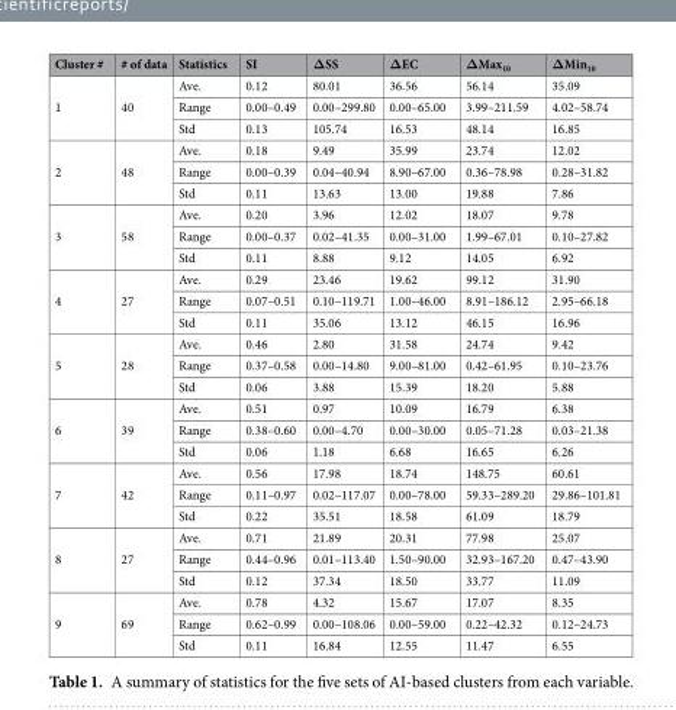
<table><thead><tr><td>Cluster #</td><td># of data</td><td>Statistics</td><td>SI</td><td>ΔSS</td><td>ΔEC</td><td>ΔMax<sub>10</sub></td><td>ΔMin<sub>10</sub></td></tr></thead><tbody><tr><td rowspan="3">1</td><td rowspan="3">40</td><td>Ave.</td><td>0.12</td><td>80.01</td><td>36.56</td><td>56.14</td><td>35.09</td></tr><tr><td>Range</td><td>0.00–0.49</td><td>0.00–299.80</td><td>0.00–65.00</td><td>3.99–211.59</td><td>4.02–58.74</td></tr><tr><td>Std</td><td>0.13</td><td>105.74</td><td>16.53</td><td>48.14</td><td>16.85</td></tr><tr><td rowspan="3">2</td><td rowspan="3">48</td><td>Ave.</td><td>0.18</td><td>9.49</td><td>35.99</td><td>23.74</td><td>12.02</td></tr><tr><td>Range</td><td>0.00–0.39</td><td>0.04–40.94</td><td>8.90–67.00</td><td>0.36–78.98</td><td>0.28–31.82</td></tr><tr><td>Std</td><td>0.11</td><td>13.63</td><td>13.00</td><td>19.88</td><td>7.86</td></tr><tr><td rowspan="3">3</td><td rowspan="3">58</td><td>Ave.</td><td>0.20</td><td>3.96</td><td>12.02</td><td>18.07</td><td>9.78</td></tr><tr><td>Range</td><td>0.00–0.37</td><td>0.02–41.35</td><td>0.00–31.00</td><td>1.99–67.01</td><td>0.10–27.82</td></tr><tr><td>Std</td><td>0.11</td><td>8.88</td><td>9.12</td><td>14.05</td><td>6.92</td></tr><tr><td rowspan="3">4</td><td rowspan="3">27</td><td>Ave.</td><td>0.29</td><td>23.46</td><td>19.62</td><td>99.12</td><td>31.90</td></tr><tr><td>Range</td><td>0.07–0.51</td><td>0.10–119.71</td><td>1.00–46.00</td><td>8.91–186.12</td><td>2.95–66.18</td></tr><tr><td>Std</td><td>0.11</td><td>35.06</td><td>13.12</td><td>46.15</td><td>16.96</td></tr><tr><td rowspan="3">5</td><td rowspan="3">28</td><td>Ave.</td><td>0.46</td><td>2.80</td><td>31.58</td><td>24.74</td><td>9.42</td></tr><tr><td>Range</td><td>0.37–0.58</td><td>0.00–14.80</td><td>9.00–81.00</td><td>0.42–61.95</td><td>0.10–23.76</td></tr><tr><td>Std</td><td>0.06</td><td>3.88</td><td>15.39</td><td>18.20</td><td>5.88</td></tr><tr><td rowspan="3">6</td><td rowspan="3">39</td><td>Ave.</td><td>0.51</td><td>0.97</td><td>10.09</td><td>16.79</td><td>6.38</td></tr><tr><td>Range</td><td>0.38–0.60</td><td>0.00–4.70</td><td>0.00–30.00</td><td>0.05–71.28</td><td>0.03–21.38</td></tr><tr><td>Std</td><td>0.06</td><td>1.18</td><td>6.68</td><td>16.65</td><td>6.26</td></tr><tr><td rowspan="3">7</td><td rowspan="3">42</td><td>Ave.</td><td>0.56</td><td>17.98</td><td>18.74</td><td>148.75</td><td>60.61</td></tr><tr><td>Range</td><td>0.11–0.97</td><td>0.02–117.07</td><td>0.00–78.00</td><td>59.33–289.20</td><td>29.86–101.81</td></tr><tr><td>Std</td><td>0.22</td><td>35.51</td><td>18.58</td><td>61.09</td><td>18.79</td></tr><tr><td rowspan="3">8</td><td rowspan="3">27</td><td>Ave.</td><td>0.71</td><td>21.89</td><td>20.31</td><td>77.98</td><td>25.07</td></tr><tr><td>Range</td><td>0.44–0.96</td><td>0.01–113.40</td><td>1.50–90.00</td><td>32.93–167.20</td><td>0.47–43.90</td></tr><tr><td>Std</td><td>0.12</td><td>37.34</td><td>18.50</td><td>33.77</td><td>11.09</td></tr><tr><td rowspan="3">9</td><td rowspan="3">69</td><td>Ave.</td><td>0.78</td><td>4.32</td><td>15.67</td><td>17.07</td><td>8.35</td></tr><tr><td>Range</td><td>0.62–0.99</td><td>0.00–108.06</td><td>0.00–59.00</td><td>0.22–42.32</td><td>0.12–24.73</td></tr><tr><td>Std</td><td>0.11</td><td>16.84</td><td>12.55</td><td>11.47</td><td>6.55</td></tr></tbody></table>